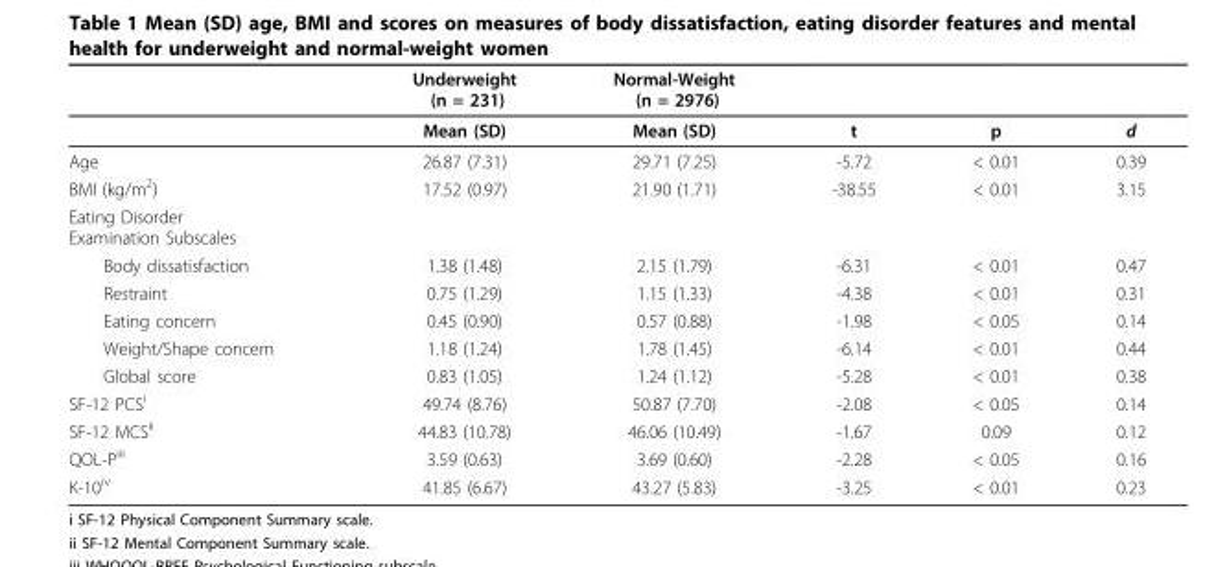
<table><thead><tr><td></td><td>Underweight (n = 231)</td><td>Normal-Weight (n = 2976)</td><td></td><td></td><td></td></tr></thead><tbody><tr><td></td><td>Mean (SD)</td><td>Mean (SD)</td><td>t</td><td>p</td><td>d</td></tr><tr><td>Age</td><td>26.87 (7.31)</td><td>29.71 (7.25)</td><td>-5.72</td><td>&lt; 0.01</td><td>0.39</td></tr><tr><td>BMI (kg/m<sup>2</sup>)</td><td>17.52 (0.97)</td><td>21.90 (1.71)</td><td>-38.55</td><td>&lt; 0.01</td><td>3.15</td></tr><tr><td colspan="6">Eating Disorder Examination Subscales</td></tr><tr><td>Body dissatisfaction</td><td>1.38 (1.48)</td><td>2.15 (1.79)</td><td>-6.31</td><td>&lt; 0.01</td><td>0.47</td></tr><tr><td>Restraint</td><td>0.75 (1.29)</td><td>1.15 (1.33)</td><td>-4.38</td><td>&lt; 0.01</td><td>0.31</td></tr><tr><td>Eating concern</td><td>0.45 (0.90)</td><td>0.57 (0.88)</td><td>-1.98</td><td>&lt; 0.05</td><td>0.14</td></tr><tr><td>Weight/Shape concern</td><td>1.18 (1.24)</td><td>1.78 (1.45)</td><td>-6.14</td><td>&lt; 0.01</td><td>0.44</td></tr><tr><td>Global score</td><td>0.83 (1.05)</td><td>1.24 (1.12)</td><td>-5.28</td><td>&lt; 0.01</td><td>0.38</td></tr><tr><td>SF-12 PCS<sup>i</sup></td><td>49.74 (8.76)</td><td>50.87 (7.70)</td><td>-2.08</td><td>&lt; 0.05</td><td>0.14</td></tr><tr><td>SF-12 MCS<sup>ii</sup></td><td>44.83 (10.78)</td><td>46.06 (10.49)</td><td>-1.67</td><td>0.09</td><td>0.12</td></tr><tr><td>QOL-P<sup>iii</sup></td><td>3.59 (0.63)</td><td>3.69 (0.60)</td><td>-2.28</td><td>&lt; 0.05</td><td>0.16</td></tr><tr><td>K-10<sup>iv</sup></td><td>41.85 (6.67)</td><td>43.27 (5.83)</td><td>-3.25</td><td>&lt; 0.01</td><td>0.23</td></tr></tbody></table>